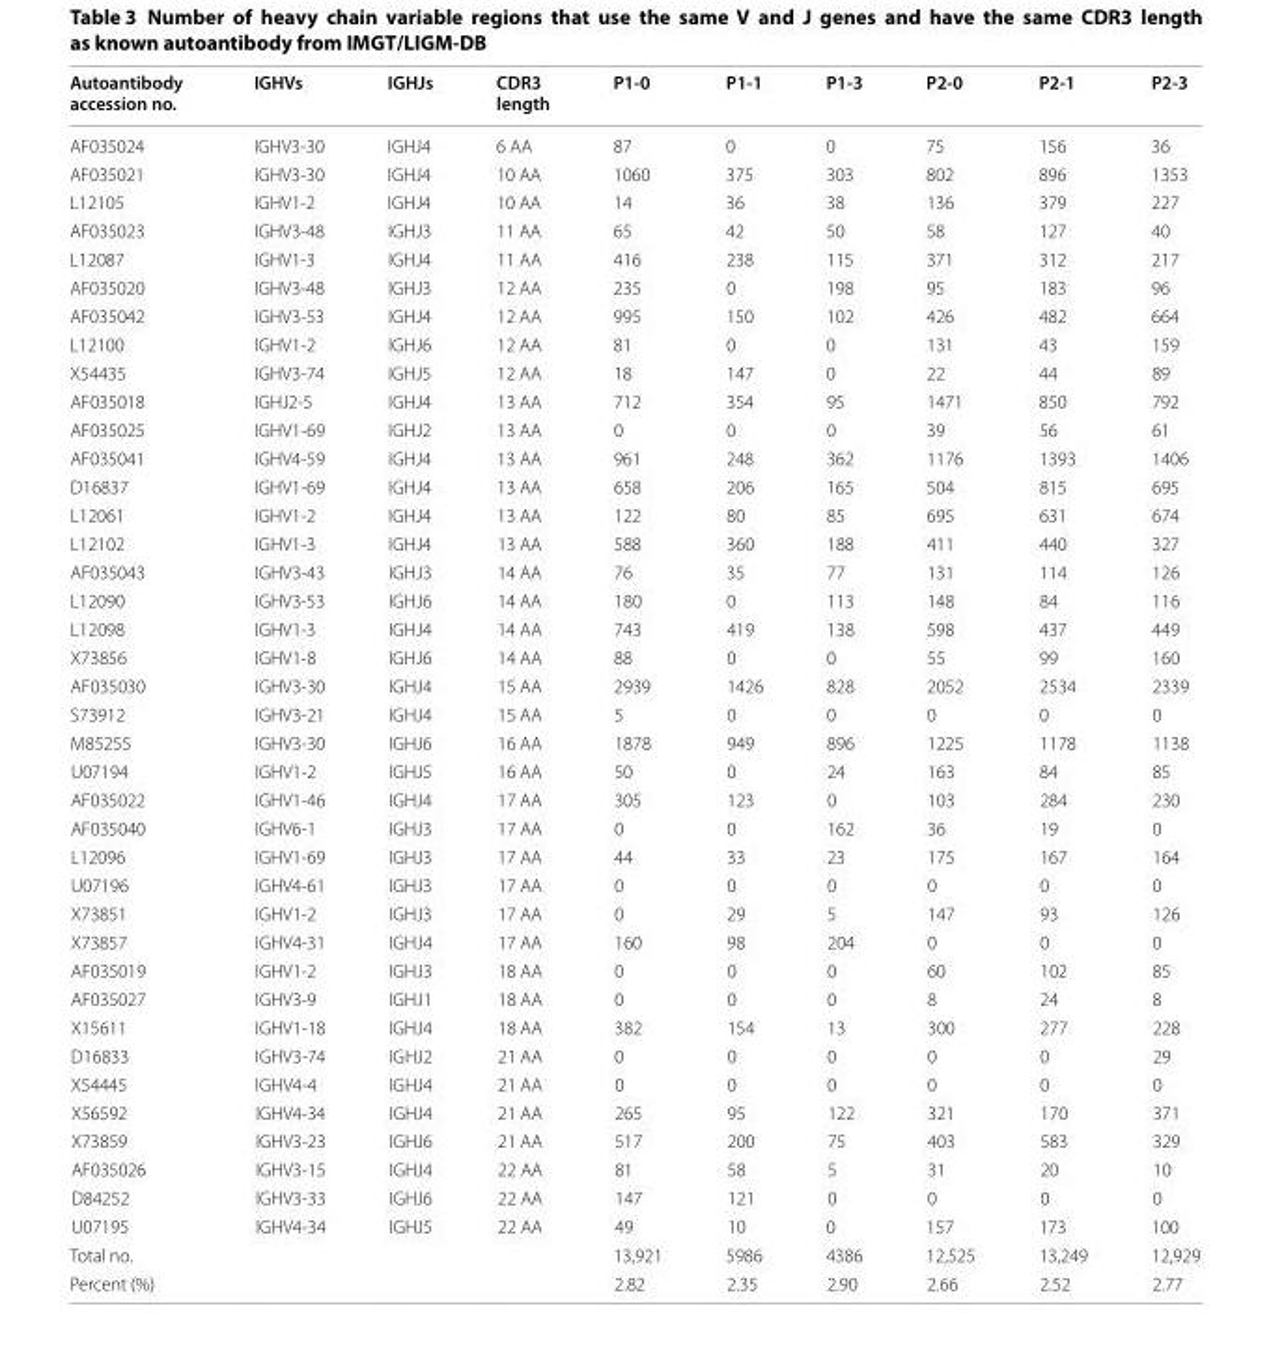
<table><thead><tr><td>Autoantibody accession no.</td><td>IGHVs</td><td>IGHJs</td><td>CDR3 length</td><td>P1‑0</td><td>P1‑1</td><td>P1‑3</td><td>P2‑0</td><td>P2‑1</td><td>P2‑3</td></tr></thead><tbody><tr><td>AF035024</td><td>IGHV3-30</td><td>IGHJ4</td><td>6 AA</td><td>87</td><td>0</td><td>0</td><td>75</td><td>156</td><td>36</td></tr><tr><td>AF035021</td><td>IGHV3-30</td><td>IGHJ4</td><td>10 AA</td><td>1060</td><td>375</td><td>303</td><td>802</td><td>896</td><td>1353</td></tr><tr><td>L12105</td><td>IGHV1-2</td><td>IGHJ4</td><td>10 AA</td><td>14</td><td>36</td><td>38</td><td>136</td><td>379</td><td>227</td></tr><tr><td>AF035023</td><td>IGHV3-48</td><td>IGHJ3</td><td>11 AA</td><td>65</td><td>42</td><td>50</td><td>58</td><td>127</td><td>40</td></tr><tr><td>L12087</td><td>IGHV1-3</td><td>IGHJ4</td><td>11 AA</td><td>416</td><td>238</td><td>115</td><td>371</td><td>312</td><td>217</td></tr><tr><td>AF035020</td><td>IGHV3-48</td><td>IGHJ3</td><td>12 AA</td><td>235</td><td>0</td><td>198</td><td>95</td><td>183</td><td>96</td></tr><tr><td>AF035042</td><td>IGHV3-53</td><td>IGHJ4</td><td>12 AA</td><td>995</td><td>150</td><td>102</td><td>426</td><td>482</td><td>664</td></tr><tr><td>L12100</td><td>IGHV1-2</td><td>IGHJ6</td><td>12 AA</td><td>81</td><td>0</td><td>0</td><td>131</td><td>43</td><td>159</td></tr><tr><td>X54435</td><td>IGHV3-74</td><td>IGHJ5</td><td>12 AA</td><td>18</td><td>147</td><td>0</td><td>22</td><td>44</td><td>89</td></tr><tr><td>AF035018</td><td>IGHJ2-5</td><td>IGHJ4</td><td>13 AA</td><td>712</td><td>354</td><td>95</td><td>1471</td><td>850</td><td>792</td></tr><tr><td>AF035025</td><td>IGHV1-69</td><td>IGHJ2</td><td>13 AA</td><td>0</td><td>0</td><td>0</td><td>39</td><td>56</td><td>61</td></tr><tr><td>AF035041</td><td>IGHV4-59</td><td>IGHJ4</td><td>13 AA</td><td>961</td><td>248</td><td>362</td><td>1176</td><td>1393</td><td>1406</td></tr><tr><td>D16837</td><td>IGHV1-69</td><td>IGHJ4</td><td>13 AA</td><td>658</td><td>206</td><td>165</td><td>504</td><td>815</td><td>695</td></tr><tr><td>L12061</td><td>IGHV1-2</td><td>IGHJ4</td><td>13 AA</td><td>122</td><td>80</td><td>85</td><td>695</td><td>631</td><td>674</td></tr><tr><td>L12102</td><td>IGHV1-3</td><td>IGHJ4</td><td>13 AA</td><td>588</td><td>360</td><td>188</td><td>411</td><td>440</td><td>327</td></tr><tr><td>AF035043</td><td>IGHV3-43</td><td>IGHJ3</td><td>14 AA</td><td>76</td><td>35</td><td>77</td><td>131</td><td>114</td><td>126</td></tr><tr><td>L12090</td><td>IGHV3-53</td><td>IGHJ6</td><td>14 AA</td><td>180</td><td>0</td><td>113</td><td>148</td><td>84</td><td>116</td></tr><tr><td>L12098</td><td>IGHV1-3</td><td>IGHJ4</td><td>14 AA</td><td>743</td><td>419</td><td>138</td><td>598</td><td>437</td><td>449</td></tr><tr><td>X73856</td><td>IGHV1-8</td><td>IGHJ6</td><td>14 AA</td><td>88</td><td>0</td><td>0</td><td>55</td><td>99</td><td>160</td></tr><tr><td>AF035030</td><td>IGHV3-30</td><td>IGHJ4</td><td>15 AA</td><td>2939</td><td>1426</td><td>828</td><td>2052</td><td>2534</td><td>2339</td></tr><tr><td>S73912</td><td>IGHV3-21</td><td>IGHJ4</td><td>15 AA</td><td>5</td><td>0</td><td>0</td><td>0</td><td>0</td><td>0</td></tr><tr><td>M85255</td><td>IGHV3-30</td><td>IGHJ6</td><td>16 AA</td><td>1878</td><td>949</td><td>896</td><td>1225</td><td>1178</td><td>1138</td></tr><tr><td>U07194</td><td>IGHV1-2</td><td>IGHJ5</td><td>16 AA</td><td>50</td><td>0</td><td>24</td><td>163</td><td>84</td><td>85</td></tr><tr><td>AF035022</td><td>IGHV1-46</td><td>IGHJ4</td><td>17 AA</td><td>305</td><td>123</td><td>0</td><td>103</td><td>284</td><td>230</td></tr><tr><td>AF035040</td><td>IGHV6-1</td><td>IGHJ3</td><td>17 AA</td><td>0</td><td>0</td><td>162</td><td>36</td><td>19</td><td>0</td></tr><tr><td>L12096</td><td>IGHV1-69</td><td>IGHJ3</td><td>17 AA</td><td>44</td><td>33</td><td>23</td><td>175</td><td>167</td><td>164</td></tr><tr><td>U07196</td><td>IGHV4-61</td><td>IGHJ3</td><td>17 AA</td><td>0</td><td>0</td><td>0</td><td>0</td><td>0</td><td>0</td></tr><tr><td>X73851</td><td>IGHV1-2</td><td>IGHJ3</td><td>17 AA</td><td>0</td><td>29</td><td>5</td><td>147</td><td>93</td><td>126</td></tr><tr><td>X73857</td><td>IGHV4-31</td><td>IGHJ4</td><td>17 AA</td><td>160</td><td>98</td><td>204</td><td>0</td><td>0</td><td>0</td></tr><tr><td>AF035019</td><td>IGHV1-2</td><td>IGHJ3</td><td>18 AA</td><td>0</td><td>0</td><td>0</td><td>60</td><td>102</td><td>85</td></tr><tr><td>AF035027</td><td>IGHV3-9</td><td>IGHJ1</td><td>18 AA</td><td>0</td><td>0</td><td>0</td><td>8</td><td>24</td><td>8</td></tr><tr><td>X15611</td><td>IGHV1-18</td><td>IGHJ4</td><td>18 AA</td><td>382</td><td>154</td><td>13</td><td>300</td><td>277</td><td>228</td></tr><tr><td>D16833</td><td>IGHV3-74</td><td>IGHJ2</td><td>21 AA</td><td>0</td><td>0</td><td>0</td><td>0</td><td>0</td><td>29</td></tr><tr><td>X54445</td><td>IGHV4-4</td><td>IGHJ4</td><td>21 AA</td><td>0</td><td>0</td><td>0</td><td>0</td><td>0</td><td>0</td></tr><tr><td>X56592</td><td>IGHV4-34</td><td>IGHJ4</td><td>21 AA</td><td>265</td><td>95</td><td>122</td><td>321</td><td>170</td><td>371</td></tr><tr><td>X73859</td><td>IGHV3-23</td><td>IGHJ6</td><td>21 AA</td><td>517</td><td>200</td><td>75</td><td>403</td><td>583</td><td>329</td></tr><tr><td>AF035026</td><td>IGHV3-15</td><td>IGHJ4</td><td>22 AA</td><td>81</td><td>58</td><td>5</td><td>31</td><td>20</td><td>10</td></tr><tr><td>D84252</td><td>IGHV3-33</td><td>IGHJ6</td><td>22 AA</td><td>147</td><td>121</td><td>0</td><td>0</td><td>0</td><td>0</td></tr><tr><td>U07195</td><td>IGHV4-34</td><td>IGHJ5</td><td>22 AA</td><td>49</td><td>10</td><td>0</td><td>157</td><td>173</td><td>100</td></tr><tr><td>Total no.</td><td></td><td></td><td></td><td>13,921</td><td>5986</td><td>4386</td><td>12,525</td><td>13,249</td><td>12,929</td></tr><tr><td>Percent (%)</td><td></td><td></td><td></td><td>2.82</td><td>2.35</td><td>2.90</td><td>2.66</td><td>2.52</td><td>2.77</td></tr></tbody></table>